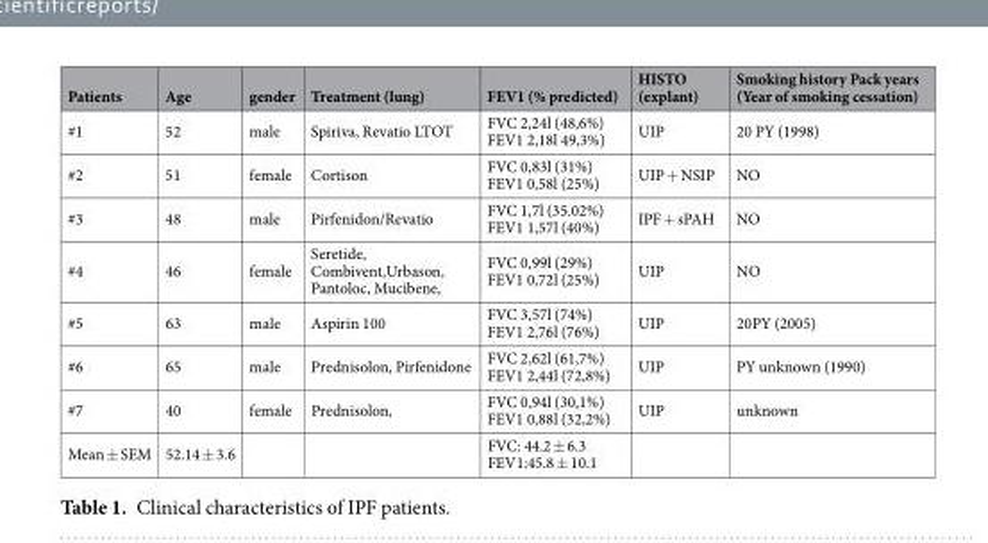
<table><thead><tr><td>Patients</td><td>Age</td><td>gender</td><td>Treatment (lung)</td><td>FEV1 (% predicted)</td><td>HISTO (explant)</td><td>Smoking history Pack years (Year of smoking cessation)</td></tr></thead><tbody><tr><td>#1</td><td>52</td><td>male</td><td>Spiriva, Revatio LTOT</td><td>FVC 2,24l (48,6%) FEV1 2,18l 49,3%)</td><td>UIP</td><td>20 PY (1998)</td></tr><tr><td>#2</td><td>51</td><td>female</td><td>Cortison</td><td>FVC 0,83l (31%) FEV1 0,58l (25%)</td><td>UIP + NSIP</td><td>NO</td></tr><tr><td>#3</td><td>48</td><td>male</td><td>Pirfenidon/Revatio</td><td>FVC 1,7l (35.02%) FEV1 1,57l (40%)</td><td>IPF + sPAH</td><td>NO</td></tr><tr><td>#4</td><td>46</td><td>female</td><td>Seretide, Combivent,Urbason, Pantoloc, Mucibene,</td><td>FVC 0,99l (29%) FEV1 0,72l (25%)</td><td>UIP</td><td>NO</td></tr><tr><td>#5</td><td>63</td><td>male</td><td>Aspirin 100</td><td>FVC 3,57l (74%) FEV1 2,76l (76%)</td><td>UIP</td><td>20PY (2005)</td></tr><tr><td>#6</td><td>65</td><td>male</td><td>Prednisolon, Pirfenidone</td><td>FVC 2,62l (61,7%) FEV1 2,44l (72,8%)</td><td>UIP</td><td>PY unknown (1990)</td></tr><tr><td>#7</td><td>40</td><td>female</td><td>Prednisolon,</td><td>FVC 0,94l (30,1%) FEV1 0,88l (32,2%)</td><td>UIP</td><td>unknown</td></tr><tr><td>Mean ± SEM</td><td>52.14 ± 3.6</td><td></td><td></td><td>FVC: 44.2 ± 6.3 FEV1:45.8 ± 10.1</td><td></td><td></td></tr></tbody></table>